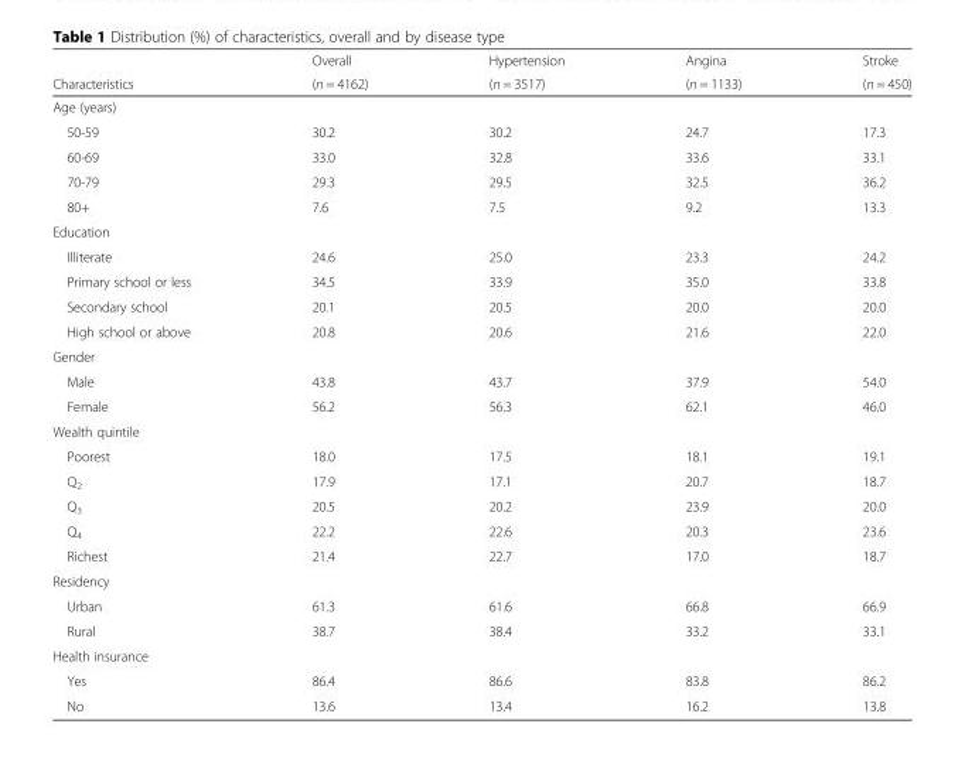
<table><thead><tr><td rowspan="2">Characteristics</td><td rowspan="2">Overall (n = 4162)</td><td rowspan="2">Hypertension (n = 3517)</td><td rowspan="2">Angina (n = 1133)</td><td rowspan="2">Stroke (n = 450)</td></tr><tr></tr></thead><tbody><tr><td colspan="5">Age (years)</td></tr><tr><td>50-59</td><td>30.2</td><td>30.2</td><td>24.7</td><td>17.3</td></tr><tr><td>60-69</td><td>33.0</td><td>32.8</td><td>33.6</td><td>33.1</td></tr><tr><td>70-79</td><td>29.3</td><td>29.5</td><td>32.5</td><td>36.2</td></tr><tr><td>80+</td><td>7.6</td><td>7.5</td><td>9.2</td><td>13.3</td></tr><tr><td colspan="5">Education</td></tr><tr><td>Illiterate</td><td>24.6</td><td>25.0</td><td>23.3</td><td>24.2</td></tr><tr><td>Primary school or less</td><td>34.5</td><td>33.9</td><td>35.0</td><td>33.8</td></tr><tr><td>Secondary school</td><td>20.1</td><td>20.5</td><td>20.0</td><td>20.0</td></tr><tr><td>High school or above</td><td>20.8</td><td>20.6</td><td>21.6</td><td>22.0</td></tr><tr><td colspan="5">Gender</td></tr><tr><td>Male</td><td>43.8</td><td>43.7</td><td>37.9</td><td>54.0</td></tr><tr><td>Female</td><td>56.2</td><td>56.3</td><td>62.1</td><td>46.0</td></tr><tr><td colspan="5">Wealth quintile</td></tr><tr><td>Poorest</td><td>18.0</td><td>17.5</td><td>18.1</td><td>19.1</td></tr><tr><td>Q<sub>2</sub></td><td>17.9</td><td>17.1</td><td>20.7</td><td>18.7</td></tr><tr><td>Q<sub>3</sub></td><td>20.5</td><td>20.2</td><td>23.9</td><td>20.0</td></tr><tr><td>Q<sub>4</sub></td><td>22.2</td><td>22.6</td><td>20.3</td><td>23.6</td></tr><tr><td>Richest</td><td>21.4</td><td>22.7</td><td>17.0</td><td>18.7</td></tr><tr><td colspan="5">Residency</td></tr><tr><td>Urban</td><td>61.3</td><td>61.6</td><td>66.8</td><td>66.9</td></tr><tr><td>Rural</td><td>38.7</td><td>38.4</td><td>33.2</td><td>33.1</td></tr><tr><td colspan="5">Health insurance</td></tr><tr><td>Yes</td><td>86.4</td><td>86.6</td><td>83.8</td><td>86.2</td></tr><tr><td>No</td><td>13.6</td><td>13.4</td><td>16.2</td><td>13.8</td></tr></tbody></table>